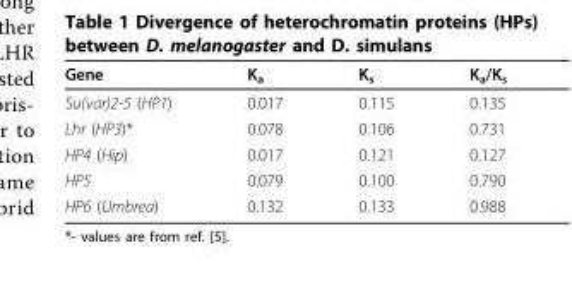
<table><thead><tr><td>Gene</td><td>K<sub>a</sub></td><td>K<sub>s</sub></td><td>K<sub>a</sub>/K<sub>s</sub></td></tr></thead><tbody><tr><td>Su(var)2-5 (HP1)</td><td>0.017</td><td>0.115</td><td>0.135</td></tr><tr><td>Lhr (HP3)*</td><td>0.078</td><td>0.106</td><td>0.731</td></tr><tr><td>HP4 (Hip)</td><td>0.017</td><td>0.121</td><td>0.127</td></tr><tr><td>HP5</td><td>0.079</td><td>0.100</td><td>0.790</td></tr><tr><td>HP6 (Umbrea)</td><td>0.132</td><td>0.133</td><td>0.988</td></tr></tbody></table>